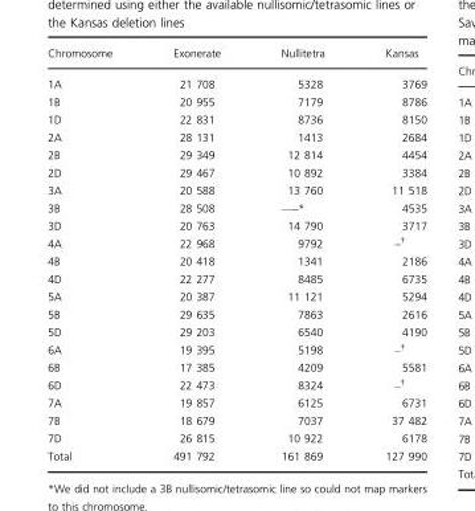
<table><thead><tr><td>Chromosome</td><td>Exonerate</td><td>Nullitetra</td><td>Kansas</td></tr></thead><tbody><tr><td>1A</td><td>21 708</td><td>5328</td><td>3769</td></tr><tr><td>1B</td><td>20 955</td><td>7179</td><td>8786</td></tr><tr><td>1D</td><td>22 831</td><td>8736</td><td>8150</td></tr><tr><td>2A</td><td>28 131</td><td>1413</td><td>2684</td></tr><tr><td>2B</td><td>29 349</td><td>12 814</td><td>4454</td></tr><tr><td>2D</td><td>29 467</td><td>10 892</td><td>3384</td></tr><tr><td>3A</td><td>20 588</td><td>13 760</td><td>11 518</td></tr><tr><td>3B</td><td>28 508</td><td>—–*</td><td>4535</td></tr><tr><td>3D</td><td>20 763</td><td>14 790</td><td>3717</td></tr><tr><td>4A</td><td>22 968</td><td>9792</td><td>–†</td></tr><tr><td>4B</td><td>20 418</td><td>1341</td><td>2186</td></tr><tr><td>4D</td><td>22 277</td><td>8485</td><td>6735</td></tr><tr><td>5A</td><td>20 387</td><td>11 121</td><td>5294</td></tr><tr><td>5B</td><td>29 635</td><td>7863</td><td>2616</td></tr><tr><td>5D</td><td>29 203</td><td>6540</td><td>4190</td></tr><tr><td>6A</td><td>19 395</td><td>5198</td><td>–†</td></tr><tr><td>6B</td><td>17 385</td><td>4209</td><td>5581</td></tr><tr><td>6D</td><td>22 473</td><td>8324</td><td>–†</td></tr><tr><td>7A</td><td>19 857</td><td>6125</td><td>6731</td></tr><tr><td>7B</td><td>18 679</td><td>7037</td><td>37 482</td></tr><tr><td>7D</td><td>26 815</td><td>10 922</td><td>6178</td></tr><tr><td>Total</td><td>491 792</td><td>161 869</td><td>127 990</td></tr></tbody></table>